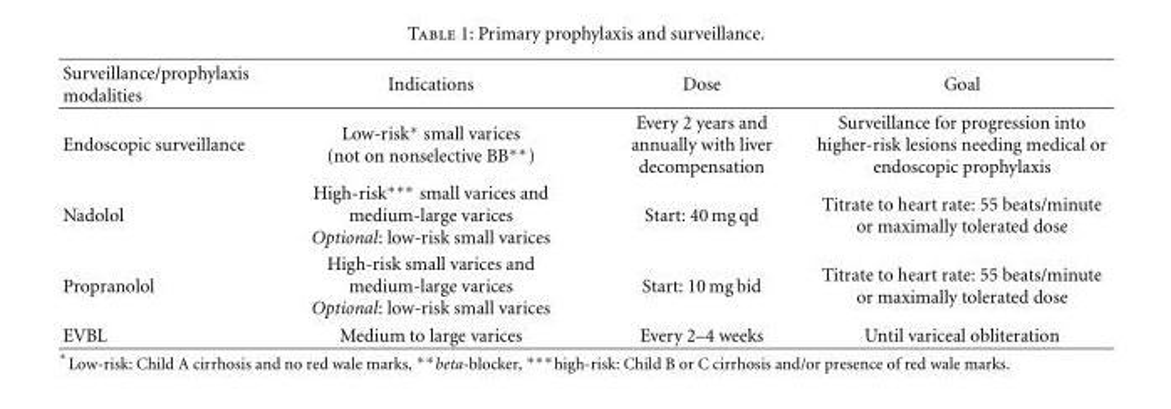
<table><thead><tr><td>Surveillance/prophylaxis modalities</td><td>Indications</td><td>Dose</td><td>Goal</td></tr></thead><tbody><tr><td>Endoscopic surveillance</td><td>Low-risk∗ small varices (not on nonselective BB∗∗)</td><td>Every 2 years and annually with liver decompensation</td><td>Surveillance for progression into higher-risk lesions needing medical or endoscopic prophylaxis</td></tr><tr><td>Nadolol</td><td>High-risk∗∗∗ small varices and medium-large varices Optional: low-risk small varices</td><td>Start: 40 mg qd</td><td>Titrate to heart rate: 55 beats/minute or maximally tolerated dose</td></tr><tr><td>Propranolol</td><td>High-risk small varices and medium-large varices Optional: low-risk small varices</td><td>Start: 10 mg bid</td><td>Titrate to heart rate: 55 beats/minute or maximally tolerated dose</td></tr><tr><td>EVBL</td><td>Medium to large varices</td><td>Every 2–4 weeks</td><td>Until variceal obliteration</td></tr></tbody></table>